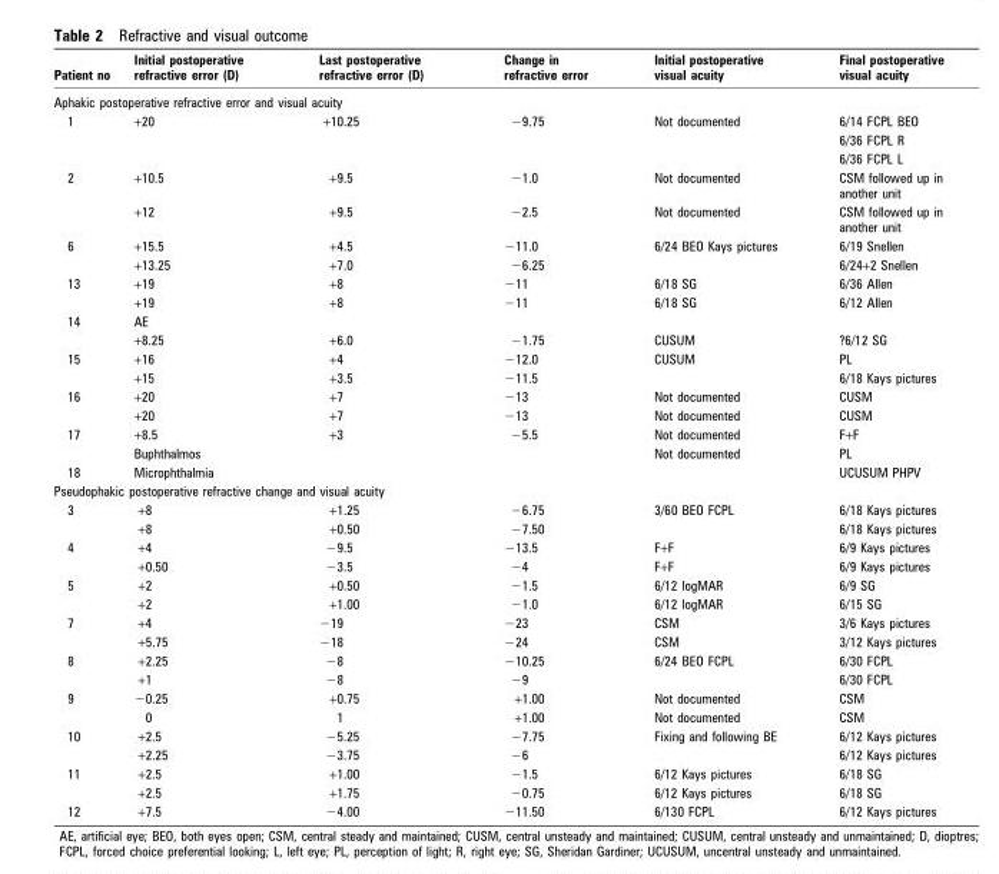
<table><thead><tr><td>Patient no</td><td>Initial postoperative refractive error (D)</td><td>Last postoperative refractive error (D)</td><td>Change in refractive error</td><td>Initial postoperative visual acuity</td><td>Final postoperative visual acuity</td></tr></thead><tbody><tr><td colspan="6">Aphakic postoperative refractive error and visual acuity</td></tr><tr><td rowspan="3">1</td><td>+20</td><td>+10.25</td><td>−9.75</td><td>Not documented</td><td>6/14 FCPL BEO</td></tr><tr><td></td><td></td><td></td><td></td><td>6/36 FCPL R</td></tr><tr><td></td><td></td><td></td><td></td><td>6/36 FCPL L</td></tr><tr><td rowspan="2">2</td><td>+10.5</td><td>+9.5</td><td>−1.0</td><td>Not documented</td><td>CSM followed up in another unit</td></tr><tr><td>+12</td><td>+9.5</td><td>−2.5</td><td>Not documented</td><td>CSM followed up in another unit</td></tr><tr><td rowspan="2">6</td><td>+15.5</td><td>+4.5</td><td>−11.0</td><td>6/24 BEO Kays pictures</td><td>6/19 Snellen</td></tr><tr><td>+13.25</td><td>+7.0</td><td>−6.25</td><td></td><td>6/24+2 Snellen</td></tr><tr><td rowspan="2">13</td><td>+19</td><td>+8</td><td>−11</td><td>6/18 SG</td><td>6/36 Allen</td></tr><tr><td>+19</td><td>+8</td><td>−11</td><td>6/18 SG</td><td>6/12 Allen</td></tr><tr><td rowspan="2">14</td><td>AE</td><td></td><td></td><td></td><td></td></tr><tr><td>+8.25</td><td>+6.0</td><td>−1.75</td><td>CUSUM</td><td>?6/12 SG</td></tr><tr><td rowspan="2">15</td><td>+16</td><td>+4</td><td>−12.0</td><td>CUSUM</td><td>PL</td></tr><tr><td>+15</td><td>+3.5</td><td>−11.5</td><td></td><td>6/18 Kays pictures</td></tr><tr><td rowspan="2">16</td><td>+20</td><td>+7</td><td>−13</td><td>Not documented</td><td>CUSM</td></tr><tr><td>+20</td><td>+7</td><td>−13</td><td>Not documented</td><td>CUSM</td></tr><tr><td rowspan="2">17</td><td>+8.5</td><td>+3</td><td>−5.5</td><td>Not documented</td><td>F+F</td></tr><tr><td>Buphthalmos</td><td></td><td></td><td>Not documented</td><td>PL</td></tr><tr><td>18</td><td>Microphthalmia</td><td></td><td></td><td></td><td>UCUSUM PHPV</td></tr><tr><td colspan="6">Pseudophakic postoperative refractive change and visual acuity</td></tr><tr><td rowspan="2">3</td><td>+8</td><td>+1.25</td><td>−6.75</td><td>3/60 BEO FCPL</td><td>6/18 Kays pictures</td></tr><tr><td>+8</td><td>+0.50</td><td>−7.50</td><td></td><td>6/18 Kays pictures</td></tr><tr><td rowspan="2">4</td><td>+4</td><td>−9.5</td><td>−13.5</td><td>F+F</td><td>6/9 Kays pictures</td></tr><tr><td>+0.50</td><td>−3.5</td><td>−4</td><td>F+F</td><td>6/9 Kays pictures</td></tr><tr><td rowspan="2">5</td><td>+2</td><td>+0.50</td><td>−1.5</td><td>6/12 logMAR</td><td>6/9 SG</td></tr><tr><td>+2</td><td>+1.00</td><td>−1.0</td><td>6/12 logMAR</td><td>6/15 SG</td></tr><tr><td rowspan="2">7</td><td>+4</td><td>−19</td><td>−23</td><td>CSM</td><td>3/6 Kays pictures</td></tr><tr><td>+5.75</td><td>−18</td><td>−24</td><td>CSM</td><td>3/12 Kays pictures</td></tr><tr><td rowspan="2">8</td><td>+2.25</td><td>−8</td><td>−10.25</td><td>6/24 BEO FCPL</td><td>6/30 FCPL</td></tr><tr><td>+1</td><td>−8</td><td>−9</td><td></td><td>6/30 FCPL</td></tr><tr><td rowspan="2">9</td><td>−0.25</td><td>+0.75</td><td>+1.00</td><td>Not documented</td><td>CSM</td></tr><tr><td>0</td><td>1</td><td>+1.00</td><td>Not documented</td><td>CSM</td></tr><tr><td rowspan="2">10</td><td>+2.5</td><td>−5.25</td><td>−7.75</td><td>Fixing and following BE</td><td>6/12 Kays pictures</td></tr><tr><td>+2.25</td><td>−3.75</td><td>−6</td><td></td><td>6/12 Kays pictures</td></tr><tr><td rowspan="2">11</td><td>+2.5</td><td>+1.00</td><td>−1.5</td><td>6/12 Kays pictures</td><td>6/18 SG</td></tr><tr><td>+2.5</td><td>+1.75</td><td>−0.75</td><td>6/12 Kays pictures</td><td>6/18 SG</td></tr><tr><td>12</td><td>+7.5</td><td>−4.00</td><td>−11.50</td><td>6/130 FCPL</td><td>6/12 Kays pictures</td></tr></tbody></table>